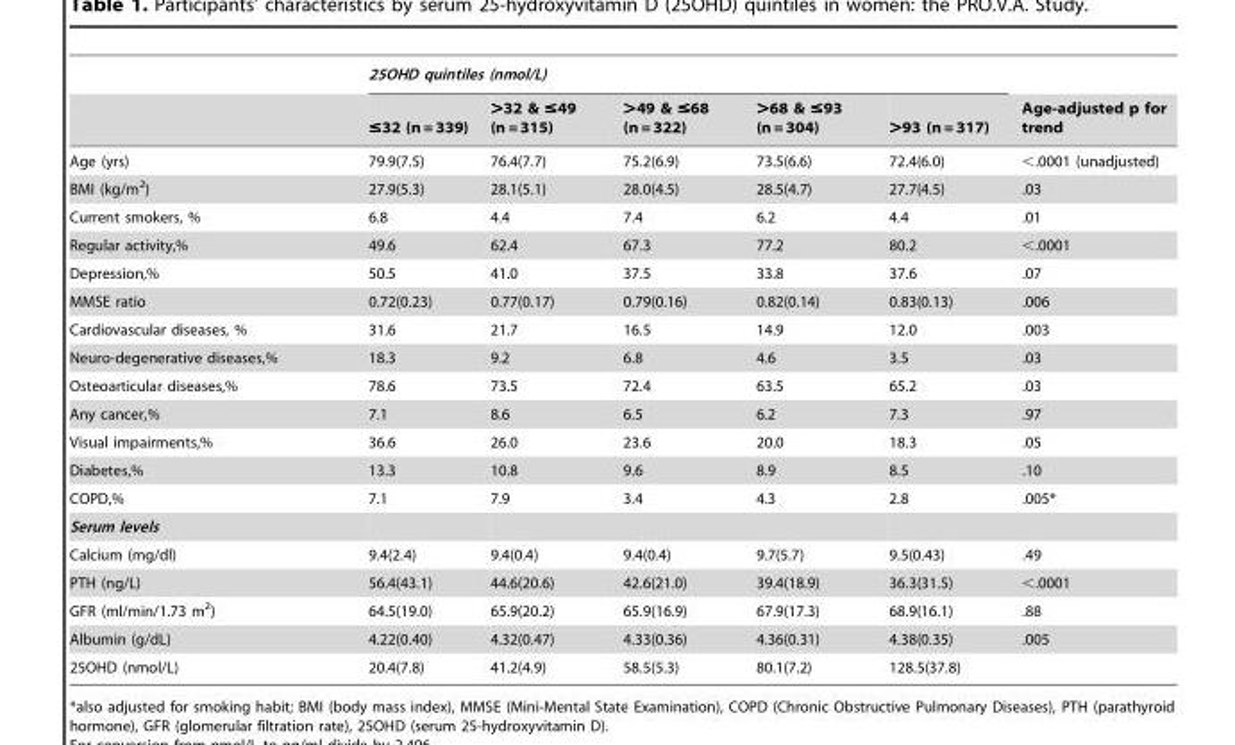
<table><thead><tr><td rowspan="2"></td><td colspan="5">25OHD quintiles (nmol/L)</td><td rowspan="2">Age-adjusted p for trend</td></tr><tr><td>≤32 (n = 339)</td><td>&gt;32 &amp; ≤49 (n = 315)</td><td>&gt;49 &amp; ≤68 (n = 322)</td><td>&gt;68 &amp; ≤93 (n = 304)</td><td>&gt;93 (n = 317)</td></tr></thead><tbody><tr><td>Age (yrs)</td><td>79.9(7.5)</td><td>76.4(7.7)</td><td>75.2(6.9)</td><td>73.5(6.6)</td><td>72.4(6.0)</td><td>&lt;.0001 (unadjusted)</td></tr><tr><td>BMI (kg/m<sup>2</sup>)</td><td>27.9(5.3)</td><td>28.1(5.1)</td><td>28.0(4.5)</td><td>28.5(4.7)</td><td>27.7(4.5)</td><td>.03</td></tr><tr><td>Current smokers, %</td><td>6.8</td><td>4.4</td><td>7.4</td><td>6.2</td><td>4.4</td><td>.01</td></tr><tr><td>Regular activity,%</td><td>49.6</td><td>62.4</td><td>67.3</td><td>77.2</td><td>80.2</td><td>&lt;.0001</td></tr><tr><td>Depression,%</td><td>50.5</td><td>41.0</td><td>37.5</td><td>33.8</td><td>37.6</td><td>.07</td></tr><tr><td>MMSE ratio</td><td>0.72(0.23)</td><td>0.77(0.17)</td><td>0.79(0.16)</td><td>0.82(0.14)</td><td>0.83(0.13)</td><td>.006</td></tr><tr><td>Cardiovascular diseases, %</td><td>31.6</td><td>21.7</td><td>16.5</td><td>14.9</td><td>12.0</td><td>.003</td></tr><tr><td>Neuro-degenerative diseases,%</td><td>18.3</td><td>9.2</td><td>6.8</td><td>4.6</td><td>3.5</td><td>.03</td></tr><tr><td>Osteoarticular diseases,%</td><td>78.6</td><td>73.5</td><td>72.4</td><td>63.5</td><td>65.2</td><td>.03</td></tr><tr><td>Any cancer,%</td><td>7.1</td><td>8.6</td><td>6.5</td><td>6.2</td><td>7.3</td><td>.97</td></tr><tr><td>Visual impairments,%</td><td>36.6</td><td>26.0</td><td>23.6</td><td>20.0</td><td>18.3</td><td>.05</td></tr><tr><td>Diabetes,%</td><td>13.3</td><td>10.8</td><td>9.6</td><td>8.9</td><td>8.5</td><td>.10</td></tr><tr><td>COPD,%</td><td>7.1</td><td>7.9</td><td>3.4</td><td>4.3</td><td>2.8</td><td>.005*</td></tr><tr><td colspan="7">Serum levels</td></tr><tr><td>Calcium (mg/dl)</td><td>9.4(2.4)</td><td>9.4(0.4)</td><td>9.4(0.4)</td><td>9.7(5.7)</td><td>9.5(0.43)</td><td>.49</td></tr><tr><td>PTH (ng/L)</td><td>56.4(43.1)</td><td>44.6(20.6)</td><td>42.6(21.0)</td><td>39.4(18.9)</td><td>36.3(31.5)</td><td>&lt;.0001</td></tr><tr><td>GFR (ml/min/1.73 m<sup>2</sup>)</td><td>64.5(19.0)</td><td>65.9(20.2)</td><td>65.9(16.9)</td><td>67.9(17.3)</td><td>68.9(16.1)</td><td>.88</td></tr><tr><td>Albumin (g/dL)</td><td>4.22(0.40)</td><td>4.32(0.47)</td><td>4.33(0.36)</td><td>4.36(0.31)</td><td>4.38(0.35)</td><td>.005</td></tr><tr><td>25OHD (nmol/L)</td><td>20.4(7.8)</td><td>41.2(4.9)</td><td>58.5(5.3)</td><td>80.1(7.2)</td><td>128.5(37.8)</td><td></td></tr></tbody></table>